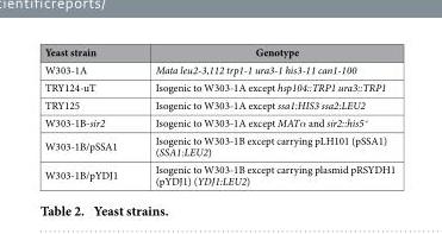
<table><thead><tr><td>Yeast strain</td><td>Genotype</td></tr></thead><tbody><tr><td>W303-1A</td><td>Mata leu2-3,112 trp1-1 ura3-1 his3-11 can1-100</td></tr><tr><td>TRY124-uT</td><td>Isogenic to W303-1A except hsp104::TRP1 ura3::TRP1</td></tr><tr><td>TRY125</td><td>Isogenic to W303-1A except ssa1:HIS3 ssa2:LEU2</td></tr><tr><td>W303-1B-sir2</td><td>Isogenic to W303-1A except MATα and sir2::his5<sup>+</sup></td></tr><tr><td>W303-1B/pSSA1</td><td>Isogenic to W303-1B except carrying pLH101 (pSSA1) (SSA1:LEU2)</td></tr><tr><td>W303-1B/pYDJ1</td><td>Isogenic to W303-1B except carrying plasmid pRSYDH1 (pYDJ1) (YDJ1:LEU2)</td></tr></tbody></table>